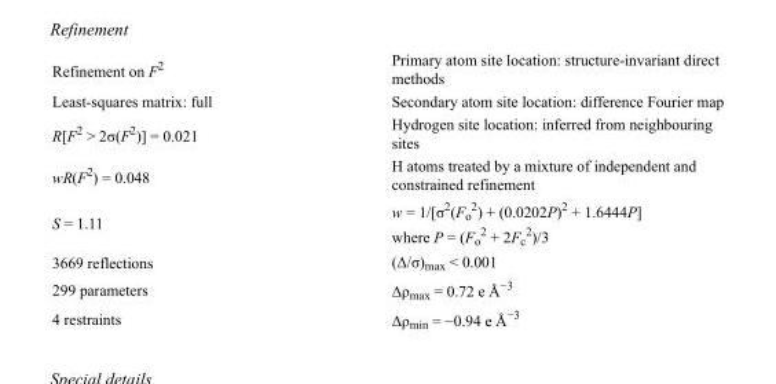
<table><tbody><tr><td>Refinement on F<sup>2</sup></td><td>Primary atom site location: structure-invariant direct methods</td></tr><tr><td>Least-squares matrix: full</td><td>Secondary atom site location: difference Fourier map</td></tr><tr><td>R[F<sup>2</sup> &gt; 2σ(F<sup>2</sup>)] = 0.021</td><td>Hydrogen site location: inferred from neighbouring sites</td></tr><tr><td>wR(F<sup>2</sup>) = 0.048</td><td>H atoms treated by a mixture of independent and constrained refinement</td></tr><tr><td>S = 1.11</td><td>w = 1/[σ<sup>2</sup>(F<sub>o</sub> <sup>2</sup>) + (0.0202P)<sup>2</sup> + 1.6444P] where P = (F<sub>o</sub> <sup>2</sup> + 2F<sub>c</sub> <sup>2</sup>)/3</td></tr><tr><td>3669 reflections</td><td>(Δ/σ)<sub>max</sub> &lt; 0.001</td></tr><tr><td>299 parameters</td><td>Δρ<sub>max</sub> = 0.72 e Å<sup>−3</sup></td></tr><tr><td>4 restraints</td><td>Δρ<sub>min</sub> = −0.94 e Å<sup>−3</sup></td></tr></tbody></table>